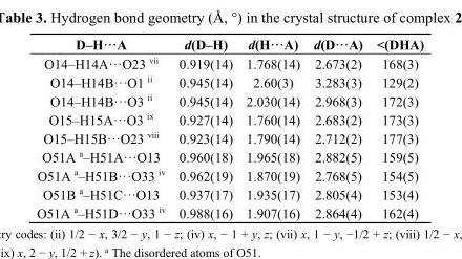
<table><thead><tr><td>D–H···A</td><td>d(D–H)</td><td>d(H···A)</td><td>d(D···A)</td><td>&lt;(DHA)</td></tr></thead><tbody><tr><td>O14–H14A···O23 <sup>vii</sup></td><td>0.919(14)</td><td>1.768(14)</td><td>2.673(2)</td><td>168(3)</td></tr><tr><td>O14–H14B···O1 <sup>ii</sup></td><td>0.945(14)</td><td>2.60(3)</td><td>3.283(3)</td><td>129(2)</td></tr><tr><td>O14–H14B···O3 <sup>ii</sup></td><td>0.945(14)</td><td>2.030(14)</td><td>2.968(3)</td><td>172(3)</td></tr><tr><td>O15–H15A···O3 <sup>ix</sup></td><td>0.927(14)</td><td>1.760(14)</td><td>2.683(2)</td><td>173(3)</td></tr><tr><td>O15–H15B···O23 <sup>viii</sup></td><td>0.923(14)</td><td>1.790(14)</td><td>2.712(2)</td><td>177(3)</td></tr><tr><td>O51A <sup>a</sup>–H51A···O13</td><td>0.960(18)</td><td>1.965(18)</td><td>2.882(5)</td><td>159(5)</td></tr><tr><td>O51A <sup>a</sup>–H51B···O33 <sup>iv</sup></td><td>0.962(19)</td><td>1.870(19)</td><td>2.768(5)</td><td>154(5)</td></tr><tr><td>O51B <sup>a</sup>–H51C···O13</td><td>0.937(17)</td><td>1.935(17)</td><td>2.805(4)</td><td>153(4)</td></tr><tr><td>O51A <sup>a</sup>–H51D···O33 <sup>iv</sup></td><td>0.988(16)</td><td>1.907(16)</td><td>2.864(4)</td><td>162(4)</td></tr></tbody></table>